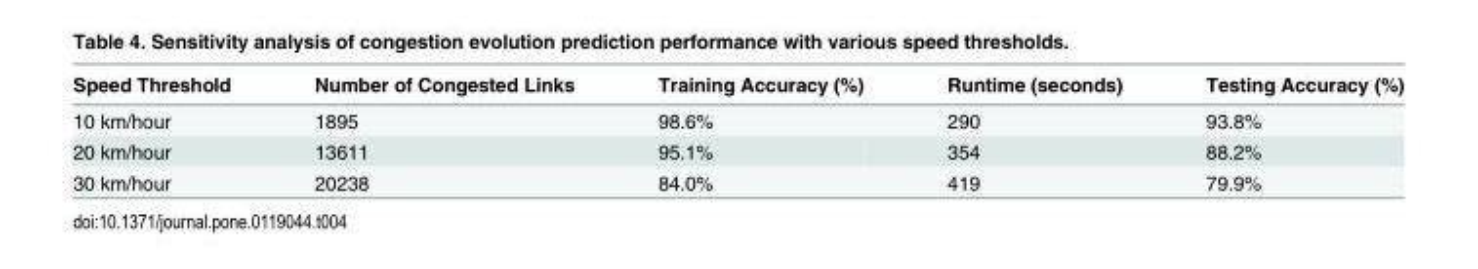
<table><thead><tr><td>Speed Threshold</td><td>Number of Congested Links</td><td>Training Accuracy (%)</td><td>Runtime (seconds)</td><td>Testing Accuracy (%)</td></tr></thead><tbody><tr><td>10 km/hour</td><td>1895</td><td>98.6%</td><td>290</td><td>93.8%</td></tr><tr><td>20 km/hour</td><td>13611</td><td>95.1%</td><td>354</td><td>88.2%</td></tr><tr><td>30 km/hour</td><td>20238</td><td>84.0%</td><td>419</td><td>79.9%</td></tr></tbody></table>